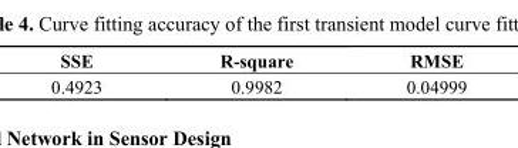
<table><thead><tr><td>SSE</td><td>R-square</td><td>RMSE</td></tr></thead><tbody><tr><td>0.4923</td><td>0.9982</td><td>0.04999</td></tr></tbody></table>